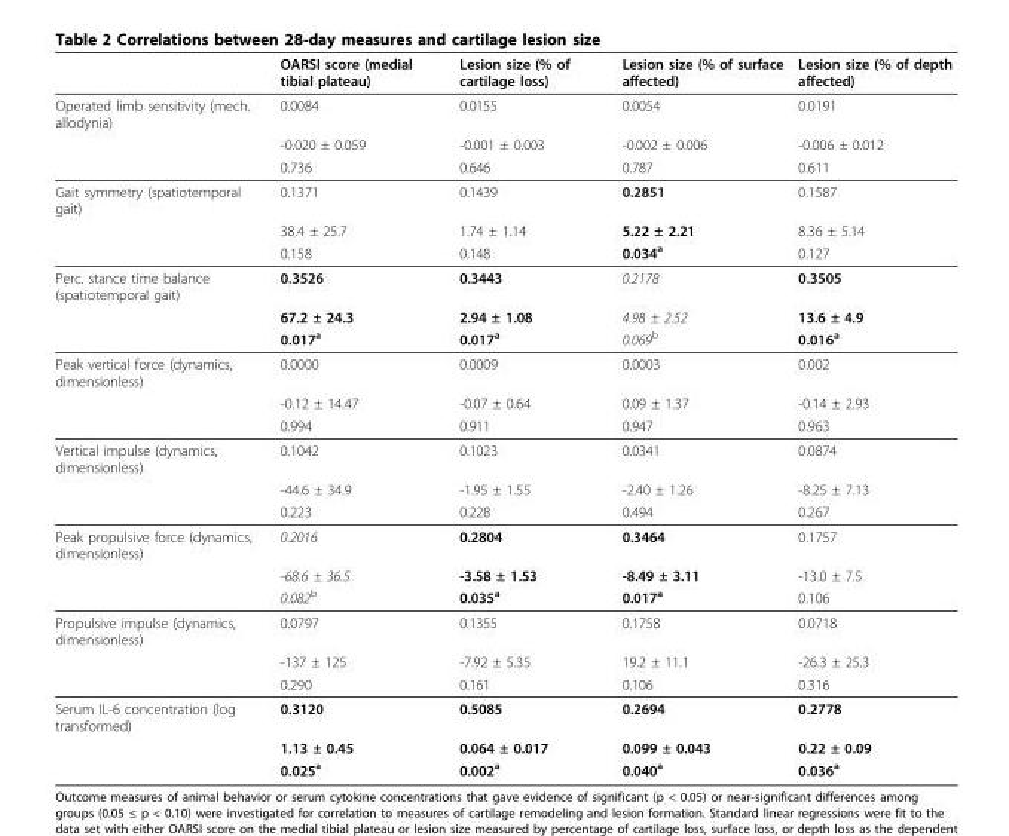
<table><thead><tr><td></td><td>OARSI score (medial tibial plateau)</td><td>Lesion size (% of cartilage loss)</td><td>Lesion size (% of surface affected)</td><td>Lesion size (% of depth affected)</td></tr></thead><tbody><tr><td rowspan="3">Operated limb sensitivity (mech. allodynia)</td><td>0.0084</td><td>0.0155</td><td>0.0054</td><td>0.0191</td></tr><tr><td>-0.020 ± 0.059</td><td>-0.001 ± 0.003</td><td>-0.002 ± 0.006</td><td>-0.006 ± 0.012</td></tr><tr><td>0.736</td><td>0.646</td><td>0.787</td><td>0.611</td></tr><tr><td rowspan="3">Gait symmetry (spatiotemporal gait)</td><td>0.1371</td><td>0.1439</td><td>0.2851</td><td>0.1587</td></tr><tr><td>38.4 ± 25.7</td><td>1.74 ± 1.14</td><td>5.22 ± 2.21</td><td>8.36 ± 5.14</td></tr><tr><td>0.158</td><td>0.148</td><td>0.034<sup>a</sup></td><td>0.127</td></tr><tr><td rowspan="3">Perc. stance time balance (spatiotemporal gait)</td><td>0.3526</td><td>0.3443</td><td>0.2178</td><td>0.3505</td></tr><tr><td>67.2 ± 24.3</td><td>2.94 ± 1.08</td><td>4.98 ± 2.52</td><td>13.6 ± 4.9</td></tr><tr><td>0.017<sup>a</sup></td><td>0.017<sup>a</sup></td><td>0.069<sup>b</sup></td><td>0.016<sup>a</sup></td></tr><tr><td rowspan="3">Peak vertical force (dynamics, dimensionless)</td><td>0.0000</td><td>0.0009</td><td>0.0003</td><td>0.002</td></tr><tr><td>-0.12 ± 14.47</td><td>-0.07 ± 0.64</td><td>0.09 ± 1.37</td><td>-0.14 ± 2.93</td></tr><tr><td>0.994</td><td>0.911</td><td>0.947</td><td>0.963</td></tr><tr><td rowspan="3">Vertical impulse (dynamics, dimensionless)</td><td>0.1042</td><td>0.1023</td><td>0.0341</td><td>0.0874</td></tr><tr><td>-44.6 ± 34.9</td><td>-1.95 ± 1.55</td><td>-2.40 ± 1.26</td><td>-8.25 ± 7.13</td></tr><tr><td>0.223</td><td>0.228</td><td>0.494</td><td>0.267</td></tr><tr><td rowspan="3">Peak propulsive force (dynamics, dimensionless)</td><td>0.2016</td><td>0.2804</td><td>0.3464</td><td>0.1757</td></tr><tr><td>-68.6 ± 36.5</td><td>-3.58 ± 1.53</td><td>-8.49 ± 3.11</td><td>-13.0 ± 7.5</td></tr><tr><td>0.082<sup>b</sup></td><td>0.035<sup>a</sup></td><td>0.017<sup>a</sup></td><td>0.106</td></tr><tr><td rowspan="3">Propulsive impulse (dynamics, dimensionless)</td><td>0.0797</td><td>0.1355</td><td>0.1758</td><td>0.0718</td></tr><tr><td>-137 ± 125</td><td>-7.92 ± 5.35</td><td>19.2 ± 11.1</td><td>-26.3 ± 25.3</td></tr><tr><td>0.290</td><td>0.161</td><td>0.106</td><td>0.316</td></tr><tr><td rowspan="3">Serum IL-6 concentration (log transformed)</td><td>0.3120</td><td>0.5085</td><td>0.2694</td><td>0.2778</td></tr><tr><td>1.13 ± 0.45</td><td>0.064 ± 0.017</td><td>0.099 ± 0.043</td><td>0.22 ± 0.09</td></tr><tr><td>0.025<sup>a</sup></td><td>0.002<sup>a</sup></td><td>0.040<sup>a</sup></td><td>0.036<sup>a</sup></td></tr></tbody></table>